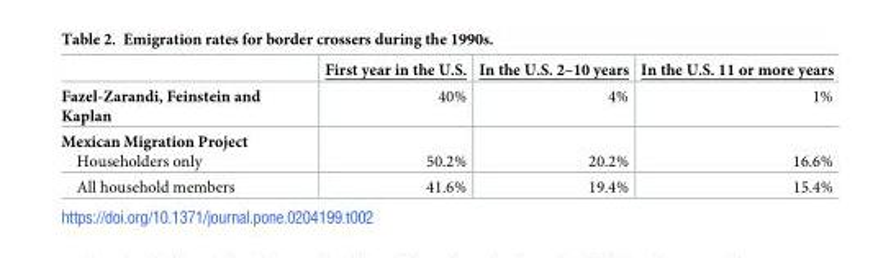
<table><thead><tr><td></td><td>First year in the U.S.</td><td>In the U.S. 2–10 years</td><td>In the U.S. 11 or more years</td></tr></thead><tbody><tr><td>Fazel-Zarandi, Feinstein and Kaplan</td><td>40%</td><td>4%</td><td>1%</td></tr><tr><td>Mexican Migration Project Householders only</td><td>50.2%</td><td>20.2%</td><td>16.6%</td></tr><tr><td>All household members</td><td>41.6%</td><td>19.4%</td><td>15.4%</td></tr></tbody></table>